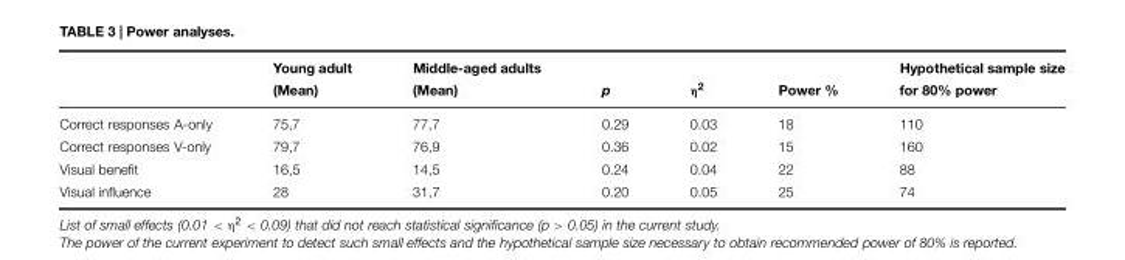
<table><thead><tr><td rowspan="2"></td><td rowspan="2">Young adult (Mean)</td><td rowspan="2">Middle-aged adults (Mean)</td><td rowspan="2">p</td><td rowspan="2">η<sup>2</sup></td><td rowspan="2">Power %</td><td rowspan="2">Hypothetical sample size for 80% power</td></tr><tr></tr></thead><tbody><tr><td>Correct responses A-only</td><td>75,7</td><td>77,7</td><td>0.29</td><td>0.03</td><td>18</td><td>110</td></tr><tr><td>Correct responses V-only</td><td>79,7</td><td>76,9</td><td>0.36</td><td>0.02</td><td>15</td><td>160</td></tr><tr><td>Visual benefit</td><td>16,5</td><td>14,5</td><td>0.24</td><td>0.04</td><td>22</td><td>88</td></tr><tr><td>Visual influence</td><td>28</td><td>31,7</td><td>0.20</td><td>0.05</td><td>25</td><td>74</td></tr></tbody></table>